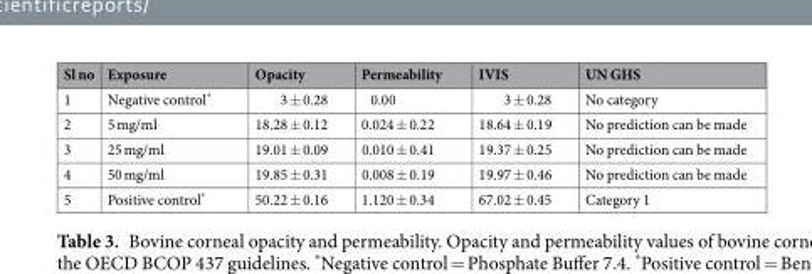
<table><thead><tr><td>Sl no</td><td>Exposure</td><td>Opacity</td><td>Permeability</td><td>IVIS</td><td>UN GHS</td></tr></thead><tbody><tr><td>1</td><td>Negative control*</td><td>3 ± 0.28</td><td>0.00</td><td>3 ± 0.28</td><td>No category</td></tr><tr><td>2</td><td>5 mg/ml</td><td>18.28 ± 0.12</td><td>0.024 ± 0.22</td><td>18.64 ± 0.19</td><td>No prediction can be made</td></tr><tr><td>3</td><td>25 mg/ml</td><td>19.01 ± 0.09</td><td>0.010 ± 0.41</td><td>19.37 ± 0.25</td><td>No prediction can be made</td></tr><tr><td>4</td><td>50 mg/ml</td><td>19.85 ± 0.31</td><td>0.008 ± 0.19</td><td>19.97 ± 0.46</td><td>No prediction can be made</td></tr><tr><td>5</td><td>Positive control*</td><td>50.22 ± 0.16</td><td>1.120 ± 0.34</td><td>67.02 ± 0.45</td><td>Category 1</td></tr></tbody></table>